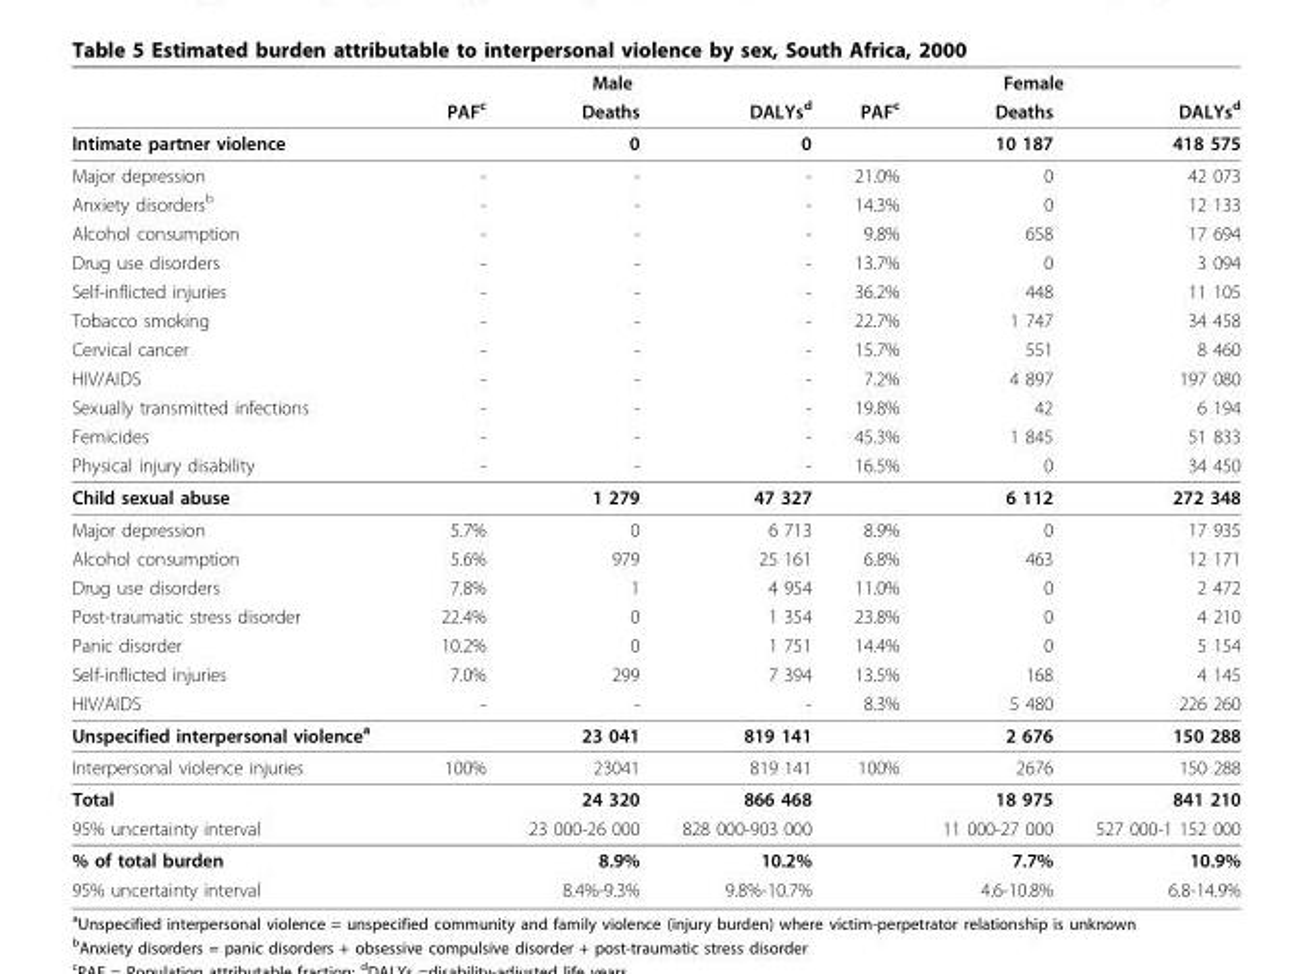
<table><thead><tr><td rowspan="2"></td><td colspan="3">Male</td><td colspan="3">Female</td></tr><tr><td>PAF<sup>c</sup></td><td>Deaths</td><td>DALYs<sup>d</sup></td><td>PAF<sup>c</sup></td><td>Deaths</td><td>DALYs<sup>d</sup></td></tr></thead><tbody><tr><td>Intimate partner violence</td><td></td><td>0</td><td>0</td><td></td><td>10 187</td><td>418 575</td></tr><tr><td>Major depression</td><td>-</td><td>-</td><td>-</td><td>21.0%</td><td>0</td><td>42 073</td></tr><tr><td>Anxiety disorders<sup>b</sup></td><td>-</td><td>-</td><td>-</td><td>14.3%</td><td>0</td><td>12 133</td></tr><tr><td>Alcohol consumption</td><td>-</td><td>-</td><td>-</td><td>9.8%</td><td>658</td><td>17 694</td></tr><tr><td>Drug use disorders</td><td>-</td><td>-</td><td>-</td><td>13.7%</td><td>0</td><td>3 094</td></tr><tr><td>Self-inflicted injuries</td><td>-</td><td>-</td><td>-</td><td>36.2%</td><td>448</td><td>11 105</td></tr><tr><td>Tobacco smoking</td><td>-</td><td>-</td><td>-</td><td>22.7%</td><td>1 747</td><td>34 458</td></tr><tr><td>Cervical cancer</td><td>-</td><td>-</td><td>-</td><td>15.7%</td><td>551</td><td>8 460</td></tr><tr><td>HIV/AIDS</td><td>-</td><td>-</td><td>-</td><td>7.2%</td><td>4 897</td><td>197 080</td></tr><tr><td>Sexually transmitted infections</td><td>-</td><td>-</td><td>-</td><td>19.8%</td><td>42</td><td>6 194</td></tr><tr><td>Femicides</td><td>-</td><td>-</td><td>-</td><td>45.3%</td><td>1 845</td><td>51 833</td></tr><tr><td>Physical injury disability</td><td>-</td><td>-</td><td>-</td><td>16.5%</td><td>0</td><td>34 450</td></tr><tr><td>Child sexual abuse</td><td></td><td>1 279</td><td>47 327</td><td></td><td>6 112</td><td>272 348</td></tr><tr><td>Major depression</td><td>5.7%</td><td>0</td><td>6 713</td><td>8.9%</td><td>0</td><td>17 935</td></tr><tr><td>Alcohol consumption</td><td>5.6%</td><td>979</td><td>25 161</td><td>6.8%</td><td>463</td><td>12 171</td></tr><tr><td>Drug use disorders</td><td>7.8%</td><td>1</td><td>4 954</td><td>11.0%</td><td>0</td><td>2 472</td></tr><tr><td>Post-traumatic stress disorder</td><td>22.4%</td><td>0</td><td>1 354</td><td>23.8%</td><td>0</td><td>4 210</td></tr><tr><td>Panic disorder</td><td>10.2%</td><td>0</td><td>1 751</td><td>14.4%</td><td>0</td><td>5 154</td></tr><tr><td>Self-inflicted injuries</td><td>7.0%</td><td>299</td><td>7 394</td><td>13.5%</td><td>168</td><td>4 145</td></tr><tr><td>HIV/AIDS</td><td>-</td><td>-</td><td>-</td><td>8.3%</td><td>5 480</td><td>226 260</td></tr><tr><td>Unspecified interpersonal violence<sup>a</sup></td><td></td><td>23 041</td><td>819 141</td><td></td><td>2 676</td><td>150 288</td></tr><tr><td>Interpersonal violence injuries</td><td>100%</td><td>23041</td><td>819 141</td><td>100%</td><td>2676</td><td>150 288</td></tr><tr><td>Total</td><td></td><td>24 320</td><td>866 468</td><td></td><td>18 975</td><td>841 210</td></tr><tr><td>95% uncertainty interval</td><td></td><td>23 000-26 000</td><td>828 000-903 000</td><td></td><td>11 000-27 000</td><td>527 000-1 152 000</td></tr><tr><td>% of total burden</td><td></td><td>8.9%</td><td>10.2%</td><td></td><td>7.7%</td><td>10.9%</td></tr><tr><td>95% uncertainty interval</td><td></td><td>8.4%-9.3%</td><td>9.8%-10.7%</td><td></td><td>4.6-10.8%</td><td>6.8-14.9%</td></tr></tbody></table>